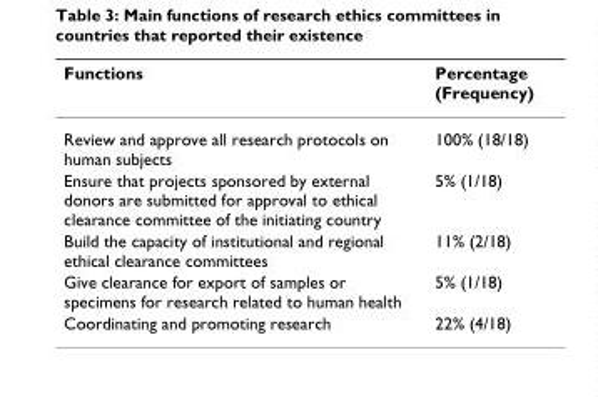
<table><thead><tr><td>Functions</td><td>Percentage (Frequency)</td></tr></thead><tbody><tr><td>Review and approve all research protocols on human subjects</td><td>100% (18/18)</td></tr><tr><td>Ensure that projects sponsored by external donors are submitted for approval to ethical clearance committee of the initiating country</td><td>5% (1/18)</td></tr><tr><td>Build the capacity of institutional and regional ethical clearance committees</td><td>11% (2/18)</td></tr><tr><td>Give clearance for export of samples or specimens for research related to human health</td><td>5% (1/18)</td></tr><tr><td>Coordinating and promoting research</td><td>22% (4/18)</td></tr></tbody></table>